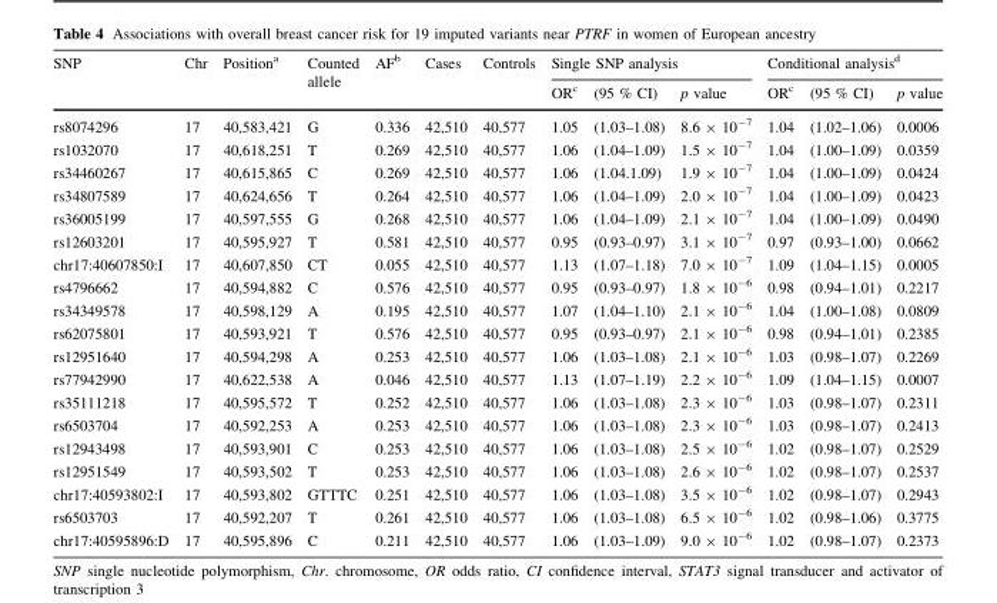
<table><thead><tr><td rowspan="2">SNP</td><td rowspan="2">Chr</td><td rowspan="2">Position<sup>a</sup></td><td rowspan="2">Counted allele</td><td rowspan="2">AF<sup>b</sup></td><td rowspan="2">Cases</td><td rowspan="2">Controls</td><td colspan="3">Single SNP analysis</td><td colspan="3">Conditional analysis<sup>d</sup></td></tr><tr><td>OR<sup>c</sup></td><td>(95 % CI)</td><td>p value</td><td>OR<sup>c</sup></td><td>(95 % CI)</td><td>p value</td></tr></thead><tbody><tr><td>rs8074296</td><td>17</td><td>40,583,421</td><td>G</td><td>0.336</td><td>42,510</td><td>40,577</td><td>1.05</td><td>(1.03–1.08)</td><td>8.6 × 10<sup>-7</sup></td><td>1.04</td><td>(1.02–1.06)</td><td>0.0006</td></tr><tr><td>rs1032070</td><td>17</td><td>40,618,251</td><td>T</td><td>0.269</td><td>42,510</td><td>40,577</td><td>1.06</td><td>(1.04–1.09)</td><td>1.5 × 10<sup>-7</sup></td><td>1.04</td><td>(1.00–1.09)</td><td>0.0359</td></tr><tr><td>rs34460267</td><td>17</td><td>40,615,865</td><td>C</td><td>0.269</td><td>42,510</td><td>40,577</td><td>1.06</td><td>(1.04.1.09)</td><td>1.9 × 10<sup>-7</sup></td><td>1.04</td><td>(1.00–1.09)</td><td>0.0424</td></tr><tr><td>rs34807589</td><td>17</td><td>40,624,656</td><td>T</td><td>0.264</td><td>42,510</td><td>40,577</td><td>1.06</td><td>(1.04–1.09)</td><td>2.0 × 10<sup>-7</sup></td><td>1.04</td><td>(1.00–1.09)</td><td>0.0423</td></tr><tr><td>rs36005199</td><td>17</td><td>40,597,555</td><td>G</td><td>0.268</td><td>42,510</td><td>40,577</td><td>1.06</td><td>(1.04–1.09)</td><td>2.1 × 10<sup>-7</sup></td><td>1.04</td><td>(1.00–1.09)</td><td>0.0490</td></tr><tr><td>rs12603201</td><td>17</td><td>40,595,927</td><td>T</td><td>0.581</td><td>42,510</td><td>40,577</td><td>0.95</td><td>(0.93–0.97)</td><td>3.1 × 10<sup>-7</sup></td><td>0.97</td><td>(0.93–1.00)</td><td>0.0662</td></tr><tr><td>chr17:40607850:I</td><td>17</td><td>40,607,850</td><td>CT</td><td>0.055</td><td>42,510</td><td>40,577</td><td>1.13</td><td>(1.07–1.18)</td><td>7.0 × 10<sup>-7</sup></td><td>1.09</td><td>(1.04–1.15)</td><td>0.0005</td></tr><tr><td>rs4796662</td><td>17</td><td>40,594,882</td><td>C</td><td>0.576</td><td>42,510</td><td>40,577</td><td>0.95</td><td>(0.93–0.97)</td><td>1.8 × 10<sup>-6</sup></td><td>0.98</td><td>(0.94–1.01)</td><td>0.2217</td></tr><tr><td>rs34349578</td><td>17</td><td>40,598,129</td><td>A</td><td>0.195</td><td>42,510</td><td>40,577</td><td>1.07</td><td>(1.04–1.10)</td><td>2.1 × 10<sup>-6</sup></td><td>1.04</td><td>(1.00–1.08)</td><td>0.0809</td></tr><tr><td>rs62075801</td><td>17</td><td>40,593,921</td><td>T</td><td>0.576</td><td>42,510</td><td>40,577</td><td>0.95</td><td>(0.93–0.97)</td><td>2.1 × 10<sup>-6</sup></td><td>0.98</td><td>(0.94–1.01)</td><td>0.2385</td></tr><tr><td>rs12951640</td><td>17</td><td>40,594,298</td><td>A</td><td>0.253</td><td>42,510</td><td>40,577</td><td>1.06</td><td>(1.03–1.08)</td><td>2.1 × 10<sup>-6</sup></td><td>1.03</td><td>(0.98–1.07)</td><td>0.2269</td></tr><tr><td>rs77942990</td><td>17</td><td>40,622,538</td><td>A</td><td>0.046</td><td>42,510</td><td>40,577</td><td>1.13</td><td>(1.07–1.19)</td><td>2.2 × 10<sup>-6</sup></td><td>1.09</td><td>(1.04–1.15)</td><td>0.0007</td></tr><tr><td>rs35111218</td><td>17</td><td>40,595,572</td><td>T</td><td>0.252</td><td>42,510</td><td>40,577</td><td>1.06</td><td>(1.03–1.08)</td><td>2.3 × 10<sup>-6</sup></td><td>1.03</td><td>(0.98–1.07)</td><td>0.2311</td></tr><tr><td>rs6503704</td><td>17</td><td>40,592,253</td><td>A</td><td>0.253</td><td>42,510</td><td>40,577</td><td>1.06</td><td>(1.03–1.08)</td><td>2.3 × 10<sup>-6</sup></td><td>1.03</td><td>(0.98–1.07)</td><td>0.2413</td></tr><tr><td>rs12943498</td><td>17</td><td>40,593,901</td><td>C</td><td>0.253</td><td>42,510</td><td>40,577</td><td>1.06</td><td>(1.03–1.08)</td><td>2.5 × 10<sup>-6</sup></td><td>1.02</td><td>(0.98–1.07)</td><td>0.2529</td></tr><tr><td>rs12951549</td><td>17</td><td>40,593,502</td><td>T</td><td>0.253</td><td>42,510</td><td>40,577</td><td>1.06</td><td>(1.03–1.08)</td><td>2.6 × 10<sup>-6</sup></td><td>1.02</td><td>(0.98–1.07)</td><td>0.2537</td></tr><tr><td>chr17:40593802:I</td><td>17</td><td>40,593,802</td><td>GTTTC</td><td>0.251</td><td>42,510</td><td>40,577</td><td>1.06</td><td>(1.03–1.08)</td><td>3.5 × 10<sup>-6</sup></td><td>1.02</td><td>(0.98–1.07)</td><td>0.2943</td></tr><tr><td>rs6503703</td><td>17</td><td>40,592,207</td><td>T</td><td>0.261</td><td>42,510</td><td>40,577</td><td>1.06</td><td>(1.03–1.08)</td><td>6.5 × 10<sup>-6</sup></td><td>1.02</td><td>(0.98–1.06)</td><td>0.3775</td></tr><tr><td>chr17:40595896:D</td><td>17</td><td>40,595,896</td><td>C</td><td>0.211</td><td>42,510</td><td>40,577</td><td>1.06</td><td>(1.03–1.09)</td><td>9.0 × 10<sup>-6</sup></td><td>1.02</td><td>(0.98–1.07)</td><td>0.2373</td></tr></tbody></table>